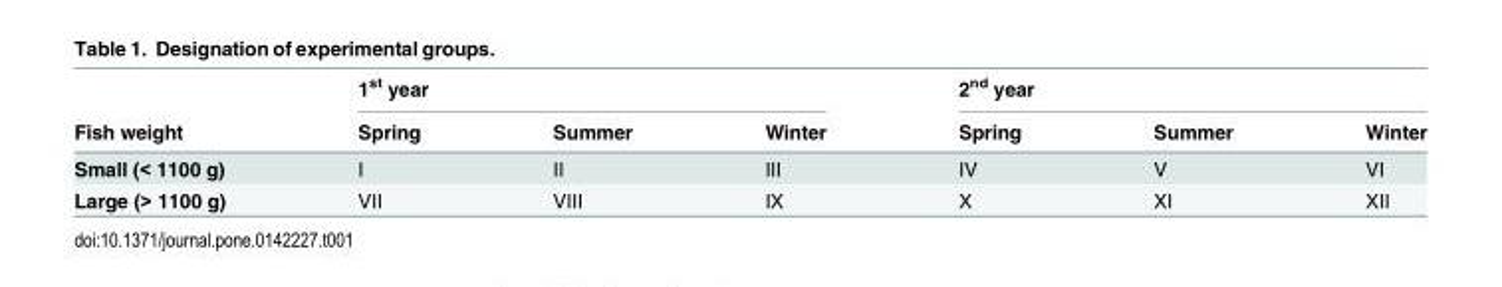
<table><thead><tr><td rowspan="2">Fish weight</td><td colspan="3">1<sup>st</sup> year</td><td colspan="3">2<sup>nd</sup> year</td></tr><tr><td>Spring</td><td>Summer</td><td>Winter</td><td>Spring</td><td>Summer</td><td>Winter</td></tr></thead><tbody><tr><td>Small (&lt; 1100 g)</td><td>I</td><td>II</td><td>III</td><td>IV</td><td>V</td><td>VI</td></tr><tr><td>Large (&gt; 1100 g)</td><td>VII</td><td>VIII</td><td>IX</td><td>X</td><td>XI</td><td>XII</td></tr></tbody></table>